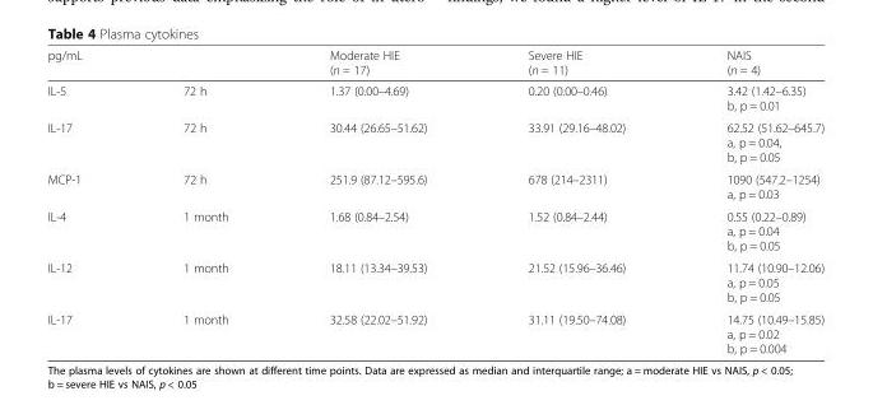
<table><thead><tr><td>pg/mL</td><td></td><td>Moderate HIE (n = 17)</td><td>Severe HIE (n = 11)</td><td>NAIS (n = 4)</td></tr></thead><tbody><tr><td>IL-5</td><td>72 h</td><td>1.37 (0.00–4.69)</td><td>0.20 (0.00–0.46)</td><td>3.42 (1.42–6.35) b, p = 0.01</td></tr><tr><td>IL-17</td><td>72 h</td><td>30.44 (26.65–51.62)</td><td>33.91 (29.16–48.02)</td><td>62.52 (51.62–645.7) a, p = 0.04, b, p = 0.05</td></tr><tr><td>MCP-1</td><td>72 h</td><td>251.9 (87.12–595.6)</td><td>678 (214–2311)</td><td>1090 (547.2–1254) a, p = 0.03</td></tr><tr><td>IL-4</td><td>1 month</td><td>1.68 (0.84–2.54)</td><td>1.52 (0.84–2.44)</td><td>0.55 (0.22–0.89) a, p = 0.04 b, p = 0.05</td></tr><tr><td>IL-12</td><td>1 month</td><td>18.11 (13.34–39.53)</td><td>21.52 (15.96–36.46)</td><td>11.74 (10.90–12.06) a, p = 0.05 b, p = 0.05</td></tr><tr><td>IL-17</td><td>1 month</td><td>32.58 (22.02–51.92)</td><td>31.11 (19.50–74.08)</td><td>14.75 (10.49–15.85) a, p = 0.02 b, p = 0.004</td></tr></tbody></table>